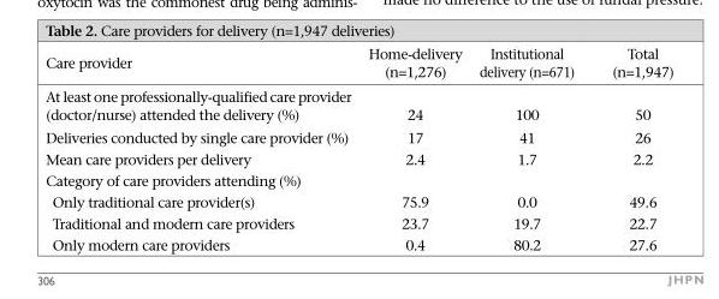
<table><thead><tr><td>Care provider</td><td>Home-delivery (n=1,276)</td><td>Institutional delivery (n=671)</td><td>Total (n=1,947)</td></tr></thead><tbody><tr><td>At least one professionally-qualified care provider (doctor/nurse) attended the delivery (%)</td><td>24</td><td>100</td><td>50</td></tr><tr><td>Deliveries conducted by single care provider (%)</td><td>17</td><td>41</td><td>26</td></tr><tr><td>Mean care providers per delivery</td><td>2.4</td><td>1.7</td><td>2.2</td></tr><tr><td colspan="4">Category of care providers attending (%)</td></tr><tr><td>Only traditional care provider(s)</td><td>75.9</td><td>0.0</td><td>49.6</td></tr><tr><td>Traditional and modern care providers</td><td>23.7</td><td>19.7</td><td>22.7</td></tr><tr><td>Only modern care providers</td><td>0.4</td><td>80.2</td><td>27.6</td></tr></tbody></table>